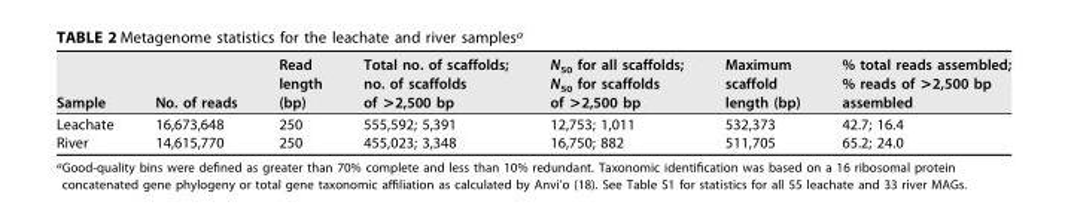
<table><thead><tr><td>Sample</td><td>No. of reads</td><td>Read length (bp)</td><td>Total no. of scaffolds; no. of scaffolds of &gt;2,500 bp</td><td>N<sub>50</sub> for all scaffolds; N<sub>50</sub> for scaffolds of &gt;2,500 bp</td><td>Maximum scaffold length (bp)</td><td>% total reads assembled; % reads of &gt;2,500 bp assembled</td></tr></thead><tbody><tr><td>Leachate</td><td>16,673,648</td><td>250</td><td>555,592; 5,391</td><td>12,753; 1,011</td><td>532,373</td><td>42.7; 16.4</td></tr><tr><td>River</td><td>14,615,770</td><td>250</td><td>455,023; 3,348</td><td>16,750; 882</td><td>511,705</td><td>65.2; 24.0</td></tr></tbody></table>